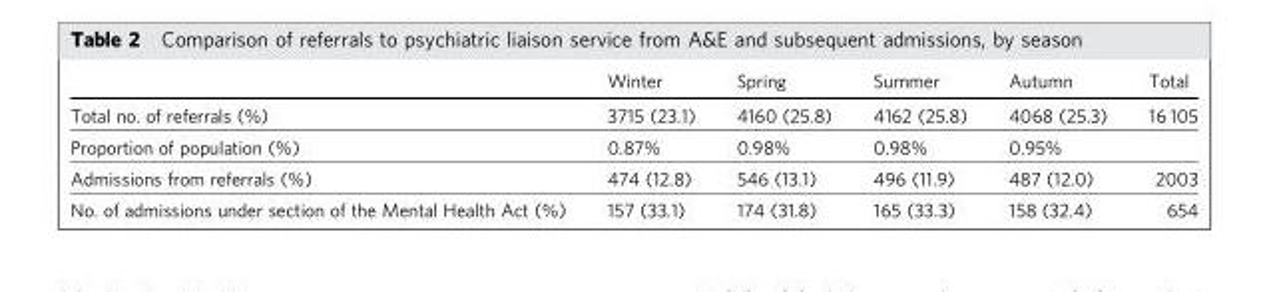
<table><thead><tr><td></td><td>Winter</td><td>Spring</td><td>Summer</td><td>Autumn</td><td>Total</td></tr></thead><tbody><tr><td>Total no. of referrals (%)</td><td>3715 (23.1)</td><td>4160 (25.8)</td><td>4162 (25.8)</td><td>4068 (25.3)</td><td>16 105</td></tr><tr><td>Proportion of population (%)</td><td>0.87%</td><td>0.98%</td><td>0.98%</td><td>0.95%</td><td></td></tr><tr><td>Admissions from referrals (%)</td><td>474 (12.8)</td><td>546 (13.1)</td><td>496 (11.9)</td><td>487 (12.0)</td><td>2003</td></tr><tr><td>No. of admissions under section of the Mental Health Act (%)</td><td>157 (33.1)</td><td>174 (31.8)</td><td>165 (33.3)</td><td>158 (32.4)</td><td>654</td></tr></tbody></table>